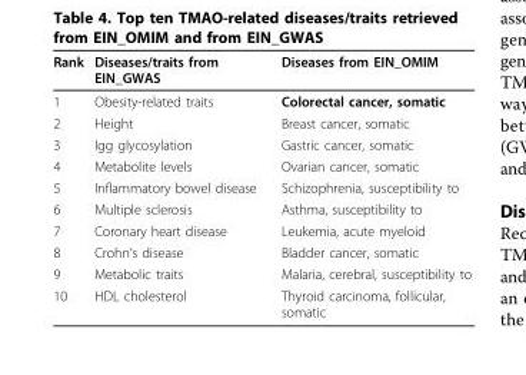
<table><thead><tr><td>Rank</td><td>Diseases/traits from EIN_GWAS</td><td>Diseases from EIN_OMIM</td></tr></thead><tbody><tr><td>1</td><td>Obesity-related traits</td><td>Colorectal cancer, somatic</td></tr><tr><td>2</td><td>Height</td><td>Breast cancer, somatic</td></tr><tr><td>3</td><td>Igg glycosylation</td><td>Gastric cancer, somatic</td></tr><tr><td>4</td><td>Metabolite levels</td><td>Ovarian cancer, somatic</td></tr><tr><td>5</td><td>Inflammatory bowel disease</td><td>Schizophrenia, susceptibility to</td></tr><tr><td>6</td><td>Multiple sclerosis</td><td>Asthma, susceptibility to</td></tr><tr><td>7</td><td>Coronary heart disease</td><td>Leukemia, acute myeloid</td></tr><tr><td>8</td><td>Crohn’s disease</td><td>Bladder cancer, somatic</td></tr><tr><td>9</td><td>Metabolic traits</td><td>Malaria, cerebral, susceptibility to</td></tr><tr><td>10</td><td>HDL cholesterol</td><td>Thyroid carcinoma, follicular, somatic</td></tr></tbody></table>